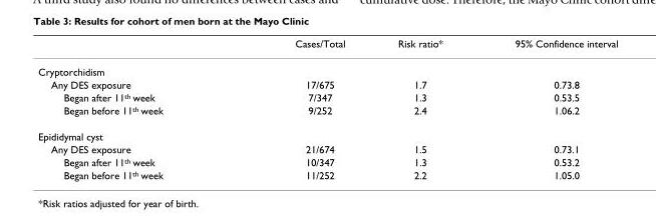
<table><thead><tr><td></td><td>Cases/Total</td><td>Risk ratio*</td><td>95% Confidence interval</td></tr></thead><tbody><tr><td colspan="4">Cryptorchidism</td></tr><tr><td>Any DES exposure</td><td>17/675</td><td>1.7</td><td>0.73.8</td></tr><tr><td>Began after 11<sup>th</sup> week</td><td>7/347</td><td>1.3</td><td>0.53.5</td></tr><tr><td>Began before 11<sup>th</sup> week</td><td>9/252</td><td>2.4</td><td>1.06.2</td></tr><tr><td colspan="4">Epididymal cyst</td></tr><tr><td>Any DES exposure</td><td>21/674</td><td>1.5</td><td>0.73.1</td></tr><tr><td>Began after 11<sup>th</sup> week</td><td>10/347</td><td>1.3</td><td>0.53.2</td></tr><tr><td>Began before 11<sup>th</sup> week</td><td>11/252</td><td>2.2</td><td>1.05.0</td></tr></tbody></table>